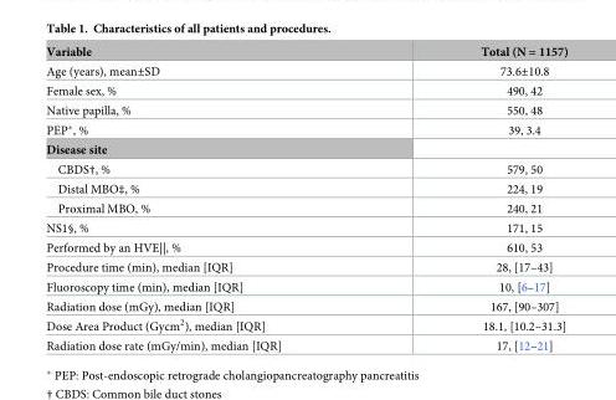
<table><thead><tr><td>Variable</td><td>Total (N = 1157)</td></tr></thead><tbody><tr><td>Age (years), mean±SD</td><td>73.6±10.8</td></tr><tr><td>Female sex, %</td><td>490, 42</td></tr><tr><td>Native papilla, %</td><td>550, 48</td></tr><tr><td>PEP*, %</td><td>39, 3.4</td></tr><tr><td colspan="2">Disease site</td></tr><tr><td>CBDS†, %</td><td>579, 50</td></tr><tr><td>Distal MBO‡, %</td><td>224, 19</td></tr><tr><td>Proximal MBO, %</td><td>240, 21</td></tr><tr><td>NS1§, %</td><td>171, 15</td></tr><tr><td>Performed by an HVE||, %</td><td>610, 53</td></tr><tr><td>Procedure time (min), median [IQR]</td><td>28, [17–43]</td></tr><tr><td>Fluoroscopy time (min), median [IQR]</td><td>10, [6–17]</td></tr><tr><td>Radiation dose (mGy), median [IQR]</td><td>167, [90–307]</td></tr><tr><td>Dose Area Product (Gycm<sup>2</sup>), median [IQR]</td><td>18.1, [10.2–31.3]</td></tr><tr><td>Radiation dose rate (mGy/min), median [IQR]</td><td>17, [12–21]</td></tr></tbody></table>